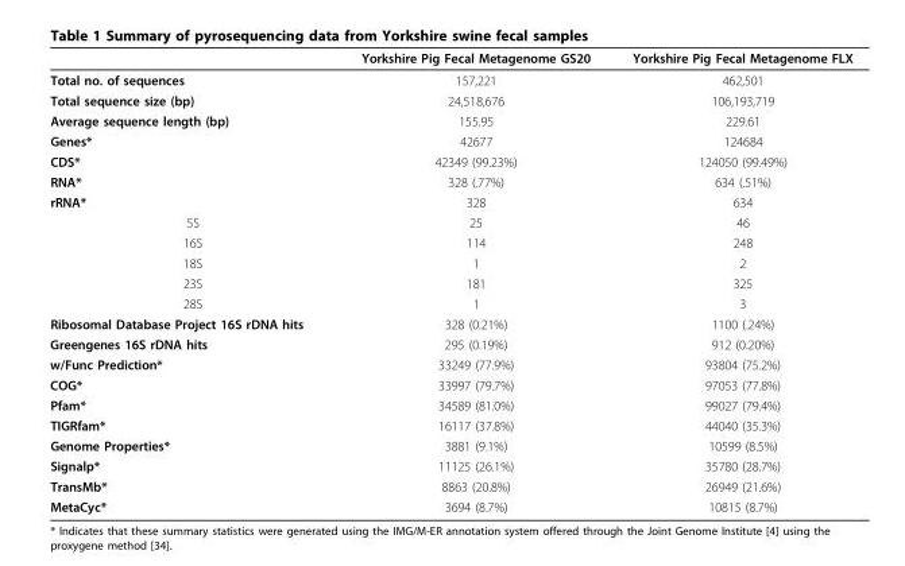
<table><thead><tr><td></td><td>Yorkshire Pig Fecal Metagenome GS20</td><td>Yorkshire Pig Fecal Metagenome FLX</td></tr></thead><tbody><tr><td>Total no. of sequences</td><td>157,221</td><td>462,501</td></tr><tr><td>Total sequence size (bp)</td><td>24,518,676</td><td>106,193,719</td></tr><tr><td>Average sequence length (bp)</td><td>155.95</td><td>229.61</td></tr><tr><td>Genes*</td><td>42677</td><td>124684</td></tr><tr><td>CDS*</td><td>42349 (99.23%)</td><td>124050 (99.49%)</td></tr><tr><td>RNA*</td><td>328 (.77%)</td><td>634 (.51%)</td></tr><tr><td>rRNA*</td><td>328</td><td>634</td></tr><tr><td>5S</td><td>25</td><td>46</td></tr><tr><td>16S</td><td>114</td><td>248</td></tr><tr><td>18S</td><td>1</td><td>2</td></tr><tr><td>23S</td><td>181</td><td>325</td></tr><tr><td>28S</td><td>1</td><td>3</td></tr><tr><td>Ribosomal Database Project 16S rDNA hits</td><td>328 (0.21%)</td><td>1100 (.24%)</td></tr><tr><td>Greengenes 16S rDNA hits</td><td>295 (0.19%)</td><td>912 (0.20%)</td></tr><tr><td>w/Func Prediction*</td><td>33249 (77.9%)</td><td>93804 (75.2%)</td></tr><tr><td>COG*</td><td>33997 (79.7%)</td><td>97053 (77.8%)</td></tr><tr><td>Pfam*</td><td>34589 (81.0%)</td><td>99027 (79.4%)</td></tr><tr><td>TIGRfam*</td><td>16117 (37.8%)</td><td>44040 (35.3%)</td></tr><tr><td>Genome Properties*</td><td>3881 (9.1%)</td><td>10599 (8.5%)</td></tr><tr><td>Signalp*</td><td>11125 (26.1%)</td><td>35780 (28.7%)</td></tr><tr><td>TransMb*</td><td>8863 (20.8%)</td><td>26949 (21.6%)</td></tr><tr><td>MetaCyc*</td><td>3694 (8.7%)</td><td>10815 (8.7%)</td></tr></tbody></table>